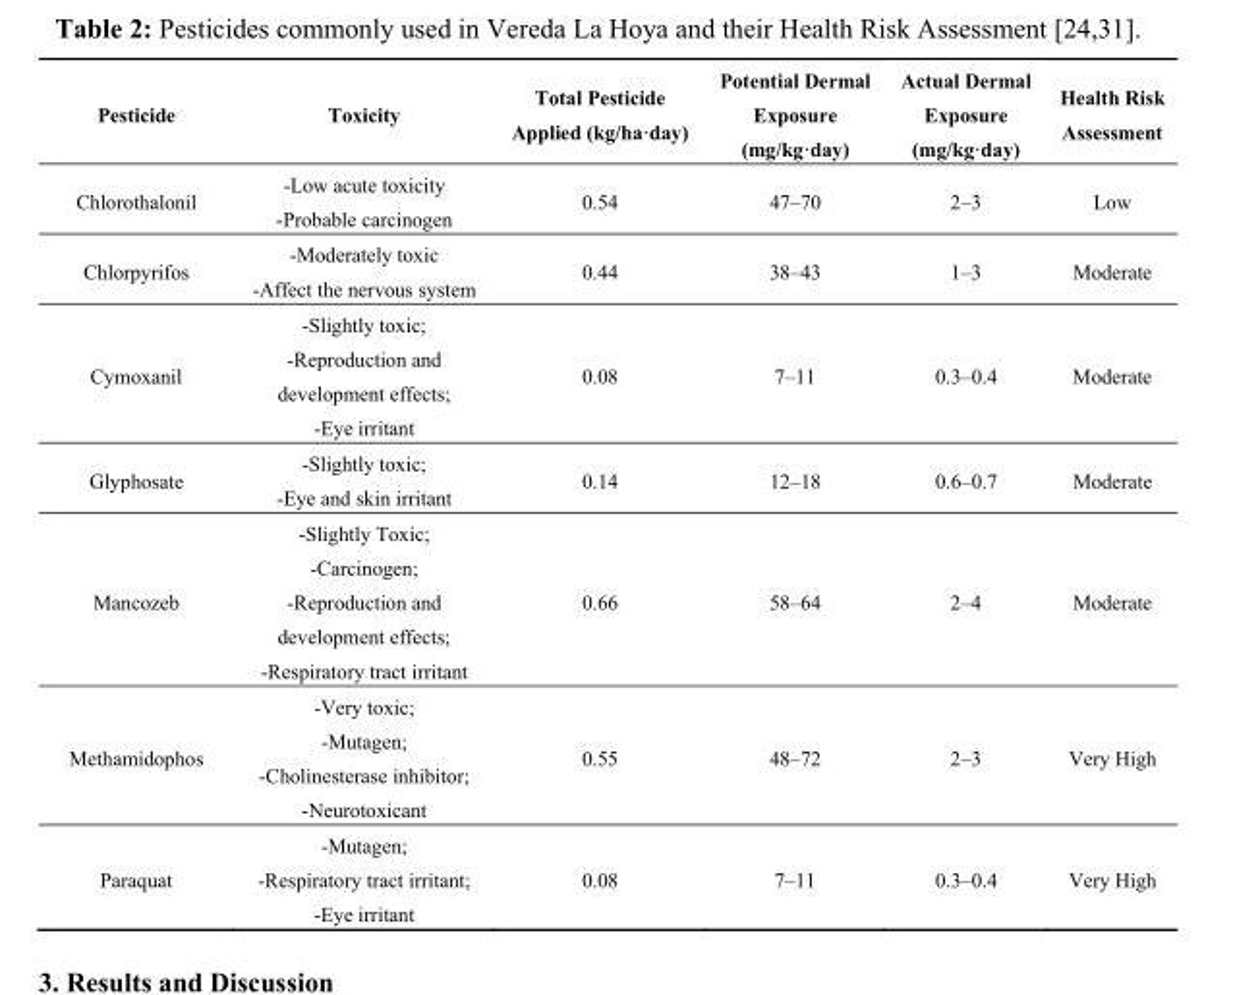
<table><thead><tr><td>Pesticide</td><td>Toxicity</td><td>Total Pesticide Applied (kg/ha·day)</td><td>Potential Dermal Exposure (mg/kg·day)</td><td>Actual Dermal Exposure (mg/kg·day)</td><td>Health Risk Assessment</td></tr></thead><tbody><tr><td>Chlorothalonil</td><td>-Low acute toxicity -Probable carcinogen</td><td>0.54</td><td>47–70</td><td>2–3</td><td>Low</td></tr><tr><td>Chlorpyrifos</td><td>-Moderately toxic -Affect the nervous system</td><td>0.44</td><td>38–43</td><td>1–3</td><td>Moderate</td></tr><tr><td>Cymoxanil</td><td>-Slightly toxic; -Reproduction and development effects; -Eye irritant</td><td>0.08</td><td>7–11</td><td>0.3–0.4</td><td>Moderate</td></tr><tr><td>Glyphosate</td><td>-Slightly toxic; -Eye and skin irritant</td><td>0.14</td><td>12–18</td><td>0.6–0.7</td><td>Moderate</td></tr><tr><td>Mancozeb</td><td>-Slightly Toxic; -Carcinogen; -Reproduction and development effects; -Respiratory tract irritant</td><td>0.66</td><td>58–64</td><td>2–4</td><td>Moderate</td></tr><tr><td>Methamidophos</td><td>-Very toxic; -Mutagen; -Cholinesterase inhibitor; -Neurotoxicant</td><td>0.55</td><td>48–72</td><td>2–3</td><td>Very High</td></tr><tr><td>Paraquat</td><td>-Mutagen; -Respiratory tract irritant; -Eye irritant</td><td>0.08</td><td>7–11</td><td>0.3–0.4</td><td>Very High</td></tr></tbody></table>